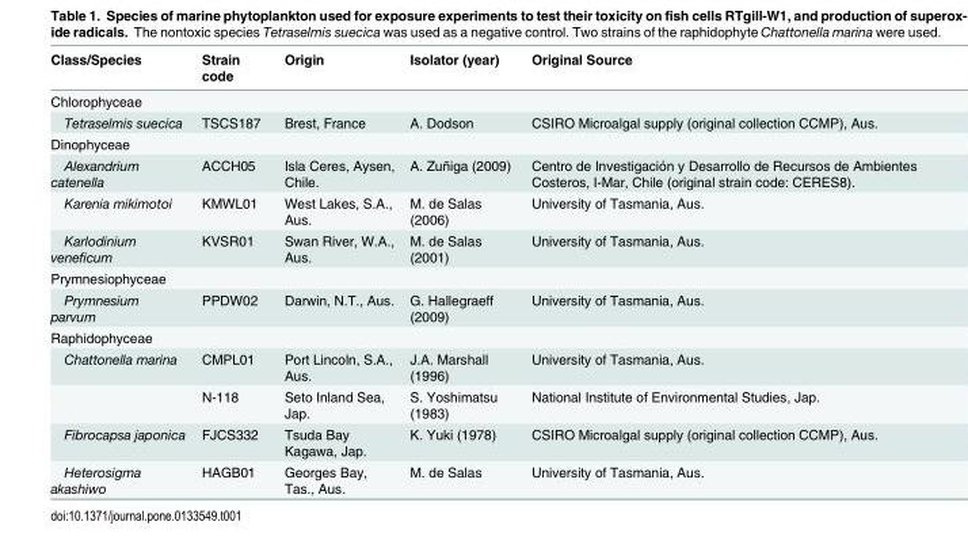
<table><thead><tr><td>Class/Species</td><td>Strain code</td><td>Origin</td><td>Isolator (year)</td><td>Original Source</td></tr></thead><tbody><tr><td colspan="5">Chlorophyceae</td></tr><tr><td>Tetraselmis suecica</td><td>TSCS187</td><td>Brest, France</td><td>A. Dodson</td><td>CSIRO Microalgal supply (original collection CCMP), Aus.</td></tr><tr><td colspan="5">Dinophyceae</td></tr><tr><td>Alexandrium catenella</td><td>ACCH05</td><td>Isla Ceres, Aysen, Chile.</td><td>A. Zuñiga (2009)</td><td>Centro de Investigación y Desarrollo de Recursos de Ambientes Costeros, I-Mar, Chile (original strain code: CERES8).</td></tr><tr><td>Karenia mikimotoi</td><td>KMWL01</td><td>West Lakes, S.A., Aus.</td><td>M. de Salas (2006)</td><td>University of Tasmania, Aus.</td></tr><tr><td>Karlodinium veneficum</td><td>KVSR01</td><td>Swan River, W.A., Aus.</td><td>M. de Salas (2001)</td><td>University of Tasmania, Aus.</td></tr><tr><td colspan="5">Prymnesiophyceae</td></tr><tr><td>Prymnesium parvum</td><td>PPDW02</td><td>Darwin, N.T., Aus.</td><td>G. Hallegraeff (2009)</td><td>University of Tasmania, Aus.</td></tr><tr><td colspan="5">Raphidophyceae</td></tr><tr><td rowspan="2">Chattonella marina</td><td>CMPL01</td><td>Port Lincoln, S.A., Aus.</td><td>J.A. Marshall (1996)</td><td>University of Tasmania, Aus.</td></tr><tr><td>N-118</td><td>Seto Inland Sea, Jap.</td><td>S. Yoshimatsu (1983)</td><td>National Institute of Environmental Studies, Jap.</td></tr><tr><td>Fibrocapsa japonica</td><td>FJCS332</td><td>Tsuda Bay Kagawa, Jap.</td><td>K. Yuki (1978)</td><td>CSIRO Microalgal supply (original collection CCMP), Aus.</td></tr><tr><td>Heterosigma akashiwo</td><td>HAGB01</td><td>Georges Bay, Tas., Aus.</td><td>M. de Salas</td><td>University of Tasmania, Aus.</td></tr></tbody></table>